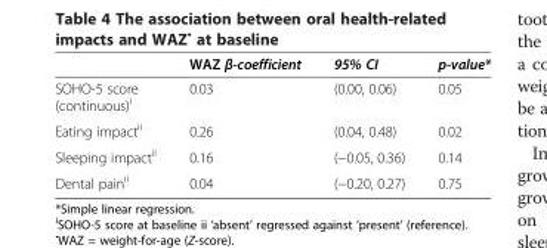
<table><thead><tr><td></td><td>WAZ β-coefficient</td><td>95% CI</td><td>p-value*</td></tr></thead><tbody><tr><td>SOHO-5 score (continuous)<sup>i</sup></td><td>0.03</td><td>(0.00, 0.06)</td><td>0.05</td></tr><tr><td>Eating impact<sup>ii</sup></td><td>0.26</td><td>(0.04, 0.48)</td><td>0.02</td></tr><tr><td>Sleeping impact<sup>ii</sup></td><td>0.16</td><td>(−0.05, 0.36)</td><td>0.14</td></tr><tr><td>Dental pain<sup>ii</sup></td><td>0.04</td><td>(−0.20, 0.27)</td><td>0.75</td></tr></tbody></table>